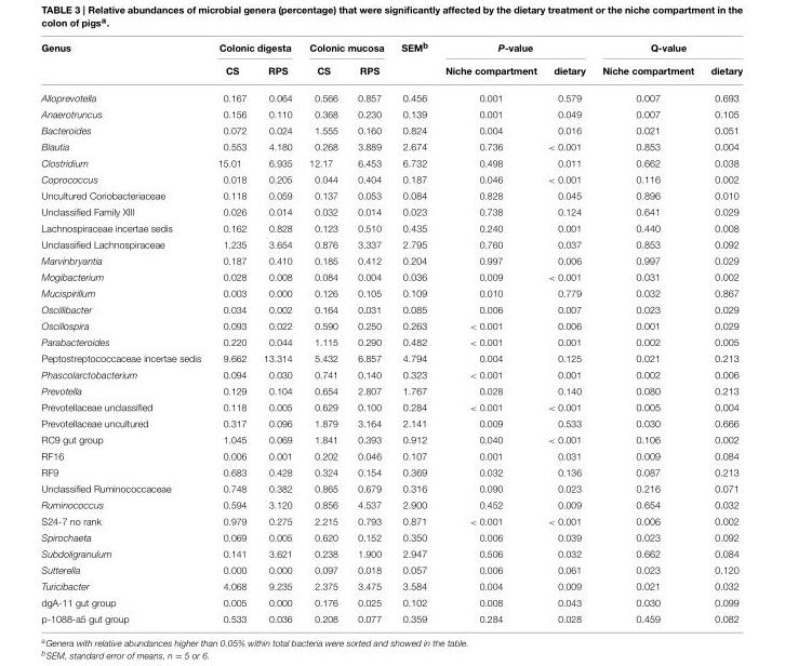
<table><thead><tr><td rowspan="2">Genus</td><td colspan="2">Colonic digesta</td><td colspan="2">Colonic mucosa</td><td rowspan="2">SEM<sup>b</sup></td><td colspan="2">P-value</td><td colspan="2">Q-value</td></tr><tr><td>CS</td><td>RPS</td><td>CS</td><td>RPS</td><td>Niche compartment</td><td>dietary</td><td>Niche compartment</td><td>dietary</td></tr></thead><tbody><tr><td>Alloprevotella</td><td>0.167</td><td>0.064</td><td>0.566</td><td>0.857</td><td>0.456</td><td>0.001</td><td>0.579</td><td>0.007</td><td>0.693</td></tr><tr><td>Anaerotruncus</td><td>0.156</td><td>0.110</td><td>0.368</td><td>0.230</td><td>0.139</td><td>0.001</td><td>0.049</td><td>0.007</td><td>0.105</td></tr><tr><td>Bacteroides</td><td>0.072</td><td>0.024</td><td>1.555</td><td>0.160</td><td>0.824</td><td>0.004</td><td>0.016</td><td>0.021</td><td>0.051</td></tr><tr><td>Blautia</td><td>0.553</td><td>4.180</td><td>0.268</td><td>3.889</td><td>2.674</td><td>0.736</td><td>&lt; 0.001</td><td>0.853</td><td>0.004</td></tr><tr><td>Clostridium</td><td>15.01</td><td>6.935</td><td>12.17</td><td>6.453</td><td>6.732</td><td>0.498</td><td>0.011</td><td>0.662</td><td>0.038</td></tr><tr><td>Coprococcus</td><td>0.018</td><td>0.205</td><td>0.044</td><td>0.404</td><td>0.187</td><td>0.046</td><td>&lt; 0.001</td><td>0.116</td><td>0.002</td></tr><tr><td>Uncultured Coriobacteriaceae</td><td>0.118</td><td>0.059</td><td>0.137</td><td>0.053</td><td>0.084</td><td>0.828</td><td>0.045</td><td>0.896</td><td>0.010</td></tr><tr><td>Unclassified Family XIII</td><td>0.026</td><td>0.014</td><td>0.032</td><td>0.014</td><td>0.023</td><td>0.738</td><td>0.124</td><td>0.641</td><td>0.029</td></tr><tr><td>Lachnospiraceae incertae sedis</td><td>0.162</td><td>0.828</td><td>0.123</td><td>0.510</td><td>0.435</td><td>0.240</td><td>0.001</td><td>0.440</td><td>0.008</td></tr><tr><td>Unclassified Lachnospiraceae</td><td>1.235</td><td>3.654</td><td>0.876</td><td>3.337</td><td>2.795</td><td>0.760</td><td>0.037</td><td>0.853</td><td>0.092</td></tr><tr><td>Marvinbryantia</td><td>0.187</td><td>0.410</td><td>0.185</td><td>0.412</td><td>0.204</td><td>0.997</td><td>0.006</td><td>0.997</td><td>0.029</td></tr><tr><td>Mogibacterium</td><td>0.028</td><td>0.008</td><td>0.084</td><td>0.004</td><td>0.036</td><td>0.009</td><td>&lt; 0.001</td><td>0.031</td><td>0.002</td></tr><tr><td>Mucispirillum</td><td>0.003</td><td>0.000</td><td>0.126</td><td>0.105</td><td>0.109</td><td>0.010</td><td>0.779</td><td>0.032</td><td>0.867</td></tr><tr><td>Oscillibacter</td><td>0.034</td><td>0.002</td><td>0.164</td><td>0.031</td><td>0.085</td><td>0.006</td><td>0.007</td><td>0.023</td><td>0.029</td></tr><tr><td>Oscillospira</td><td>0.093</td><td>0.022</td><td>0.590</td><td>0.250</td><td>0.263</td><td>&lt; 0.001</td><td>0.006</td><td>0.001</td><td>0.029</td></tr><tr><td>Parabacteroides</td><td>0.220</td><td>0.044</td><td>1.115</td><td>0.290</td><td>0.482</td><td>&lt; 0.001</td><td>0.001</td><td>0.002</td><td>0.005</td></tr><tr><td>Peptostreptococcaceae incertae sedis</td><td>9.662</td><td>13.314</td><td>5.432</td><td>6.857</td><td>4.794</td><td>0.004</td><td>0.125</td><td>0.021</td><td>0.213</td></tr><tr><td>Phascolarctobacterium</td><td>0.094</td><td>0.030</td><td>0.741</td><td>0.140</td><td>0.323</td><td>&lt; 0.001</td><td>0.001</td><td>0.002</td><td>0.006</td></tr><tr><td>Prevotella</td><td>0.129</td><td>0.104</td><td>0.654</td><td>2.807</td><td>1.767</td><td>0.028</td><td>0.140</td><td>0.080</td><td>0.213</td></tr><tr><td>Prevotellaceae unclassified</td><td>0.118</td><td>0.005</td><td>0.629</td><td>0.100</td><td>0.284</td><td>&lt; 0.001</td><td>&lt; 0.001</td><td>0.005</td><td>0.004</td></tr><tr><td>Prevotellaceae uncultured</td><td>0.317</td><td>0.096</td><td>1.879</td><td>3.164</td><td>2.141</td><td>0.009</td><td>0.533</td><td>0.030</td><td>0.666</td></tr><tr><td>RC9 gut group</td><td>1.045</td><td>0.069</td><td>1.841</td><td>0.393</td><td>0.912</td><td>0.040</td><td>&lt; 0.001</td><td>0.106</td><td>0.002</td></tr><tr><td>RF16</td><td>0.006</td><td>0.001</td><td>0.202</td><td>0.046</td><td>0.107</td><td>0.001</td><td>0.031</td><td>0.009</td><td>0.084</td></tr><tr><td>RF9</td><td>0.683</td><td>0.428</td><td>0.324</td><td>0.154</td><td>0.369</td><td>0.032</td><td>0.136</td><td>0.087</td><td>0.213</td></tr><tr><td>Unclassified Ruminococcaceae</td><td>0.748</td><td>0.382</td><td>0.865</td><td>0.679</td><td>0.316</td><td>0.090</td><td>0.023</td><td>0.216</td><td>0.071</td></tr><tr><td>Ruminococcus</td><td>0.594</td><td>3.120</td><td>0.856</td><td>4.537</td><td>2.900</td><td>0.452</td><td>0.009</td><td>0.654</td><td>0.032</td></tr><tr><td>S24-7 no rank</td><td>0.979</td><td>0.275</td><td>2.215</td><td>0.793</td><td>0.871</td><td>&lt; 0.001</td><td>&lt; 0.001</td><td>0.006</td><td>0.002</td></tr><tr><td>Spirochaeta</td><td>0.069</td><td>0.005</td><td>0.620</td><td>0.152</td><td>0.350</td><td>0.006</td><td>0.039</td><td>0.023</td><td>0.092</td></tr><tr><td>Subdoligranulum</td><td>0.141</td><td>3.621</td><td>0.238</td><td>1.900</td><td>2.947</td><td>0.506</td><td>0.032</td><td>0.662</td><td>0.084</td></tr><tr><td>Sutterella</td><td>0.000</td><td>0.000</td><td>0.097</td><td>0.018</td><td>0.057</td><td>0.006</td><td>0.061</td><td>0.023</td><td>0.120</td></tr><tr><td>Turicibacter</td><td>4.068</td><td>9.235</td><td>2.375</td><td>3.475</td><td>3.584</td><td>0.004</td><td>0.009</td><td>0.021</td><td>0.032</td></tr><tr><td>dgA-11 gut group</td><td>0.005</td><td>0.000</td><td>0.176</td><td>0.025</td><td>0.102</td><td>0.008</td><td>0.043</td><td>0.030</td><td>0.099</td></tr><tr><td>p-1088-a5 gut group</td><td>0.533</td><td>0.036</td><td>0.208</td><td>0.077</td><td>0.359</td><td>0.284</td><td>0.028</td><td>0.459</td><td>0.082</td></tr></tbody></table>